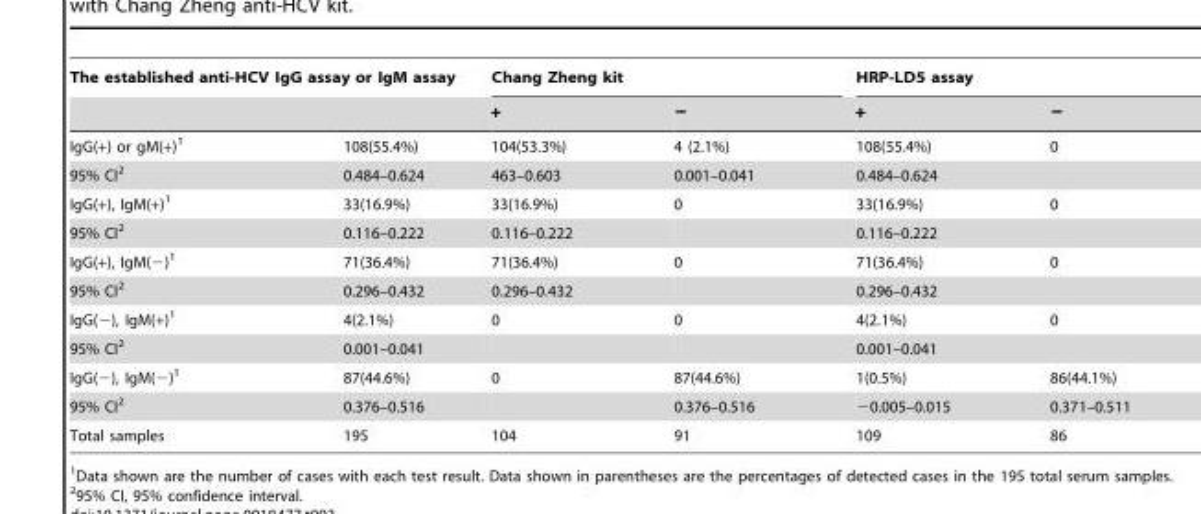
<table><thead><tr><td colspan="2">The established anti-HCV IgG assay or IgM assay</td><td colspan="2">Chang Zheng kit</td><td colspan="2">HRP-LD5 assay</td></tr><tr><td></td><td></td><td>+</td><td>−</td><td>+</td><td>−</td></tr></thead><tbody><tr><td>IgG(+) or gM(+)<sup>1</sup></td><td>108(55.4%)</td><td>104(53.3%)</td><td>4 (2.1%)</td><td>108(55.4%)</td><td>0</td></tr><tr><td>95% CI<sup>2</sup></td><td>0.484–0.624</td><td>463–0.603</td><td>0.001–0.041</td><td>0.484–0.624</td><td></td></tr><tr><td>IgG(+), IgM(+)<sup>1</sup></td><td>33(16.9%)</td><td>33(16.9%)</td><td>0</td><td>33(16.9%)</td><td>0</td></tr><tr><td>95% CI<sup>2</sup></td><td>0.116–0.222</td><td>0.116–0.222</td><td></td><td>0.116–0.222</td><td></td></tr><tr><td>IgG(+), IgM(−)<sup>1</sup></td><td>71(36.4%)</td><td>71(36.4%)</td><td>0</td><td>71(36.4%)</td><td>0</td></tr><tr><td>95% CI<sup>2</sup></td><td>0.296–0.432</td><td>0.296–0.432</td><td></td><td>0.296–0.432</td><td></td></tr><tr><td>IgG(−), IgM(+)<sup>1</sup></td><td>4(2.1%)</td><td>0</td><td>0</td><td>4(2.1%)</td><td>0</td></tr><tr><td>95% CI<sup>2</sup></td><td>0.001–0.041</td><td></td><td></td><td>0.001–0.041</td><td></td></tr><tr><td>IgG(−), IgM(−)<sup>1</sup></td><td>87(44.6%)</td><td>0</td><td>87(44.6%)</td><td>1(0.5%)</td><td>86(44.1%)</td></tr><tr><td>95% CI<sup>2</sup></td><td>0.376–0.516</td><td></td><td>0.376–0.516</td><td>−0.005–0.015</td><td>0.371–0.511</td></tr><tr><td>Total samples</td><td>195</td><td>104</td><td>91</td><td>109</td><td>86</td></tr></tbody></table>